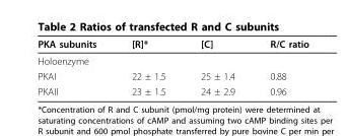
<table><thead><tr><td>PKA subunits</td><td>[R]*</td><td>[C]</td><td>R/C ratio</td></tr></thead><tbody><tr><td colspan="4">Holoenzyme</td></tr><tr><td>PKAI</td><td>22 ± 1.5</td><td>25 ± 1.4</td><td>0.88</td></tr><tr><td>PKAII</td><td>23 ± 1.5</td><td>24 ± 2.9</td><td>0.96</td></tr></tbody></table>